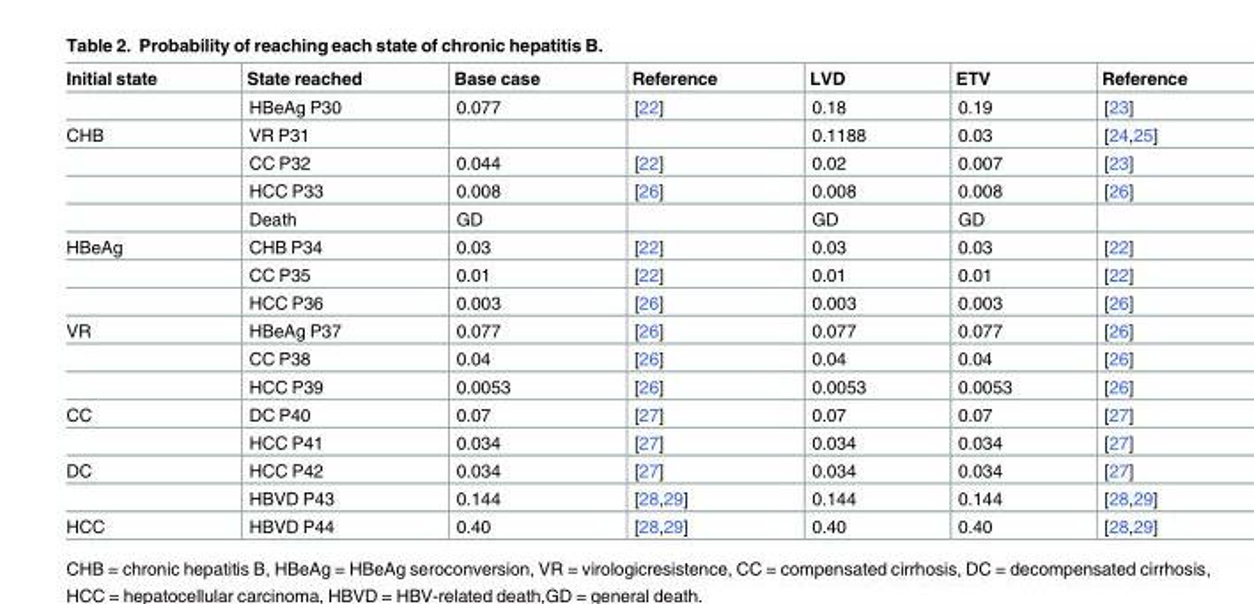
<table><thead><tr><td>Initial state</td><td>State reached</td><td>Base case</td><td>Reference</td><td>LVD</td><td>ETV</td><td>Reference</td></tr></thead><tbody><tr><td></td><td>HBeAg P30</td><td>0.077</td><td>[22]</td><td>0.18</td><td>0.19</td><td>[23]</td></tr><tr><td rowspan="4">CHB</td><td>VR P31</td><td></td><td></td><td>0.1188</td><td>0.03</td><td>[24,25]</td></tr><tr><td>CC P32</td><td>0.044</td><td>[22]</td><td>0.02</td><td>0.007</td><td>[23]</td></tr><tr><td>HCC P33</td><td>0.008</td><td>[26]</td><td>0.008</td><td>0.008</td><td>[26]</td></tr><tr><td>Death</td><td>GD</td><td></td><td>GD</td><td>GD</td><td></td></tr><tr><td rowspan="3">HBeAg</td><td>CHB P34</td><td>0.03</td><td>[22]</td><td>0.03</td><td>0.03</td><td>[22]</td></tr><tr><td>CC P35</td><td>0.01</td><td>[22]</td><td>0.01</td><td>0.01</td><td>[22]</td></tr><tr><td>HCC P36</td><td>0.003</td><td>[26]</td><td>0.003</td><td>0.003</td><td>[26]</td></tr><tr><td rowspan="3">VR</td><td>HBeAg P37</td><td>0.077</td><td>[26]</td><td>0.077</td><td>0.077</td><td>[26]</td></tr><tr><td>CC P38</td><td>0.04</td><td>[26]</td><td>0.04</td><td>0.04</td><td>[26]</td></tr><tr><td>HCC P39</td><td>0.0053</td><td>[26]</td><td>0.0053</td><td>0.0053</td><td>[26]</td></tr><tr><td rowspan="2">CC</td><td>DC P40</td><td>0.07</td><td>[27]</td><td>0.07</td><td>0.07</td><td>[27]</td></tr><tr><td>HCC P41</td><td>0.034</td><td>[27]</td><td>0.034</td><td>0.034</td><td>[27]</td></tr><tr><td rowspan="2">DC</td><td>HCC P42</td><td>0.034</td><td>[27]</td><td>0.034</td><td>0.034</td><td>[27]</td></tr><tr><td>HBVD P43</td><td>0.144</td><td>[28,29]</td><td>0.144</td><td>0.144</td><td>[28,29]</td></tr><tr><td>HCC</td><td>HBVD P44</td><td>0.40</td><td>[28,29]</td><td>0.40</td><td>0.40</td><td>[28,29]</td></tr></tbody></table>